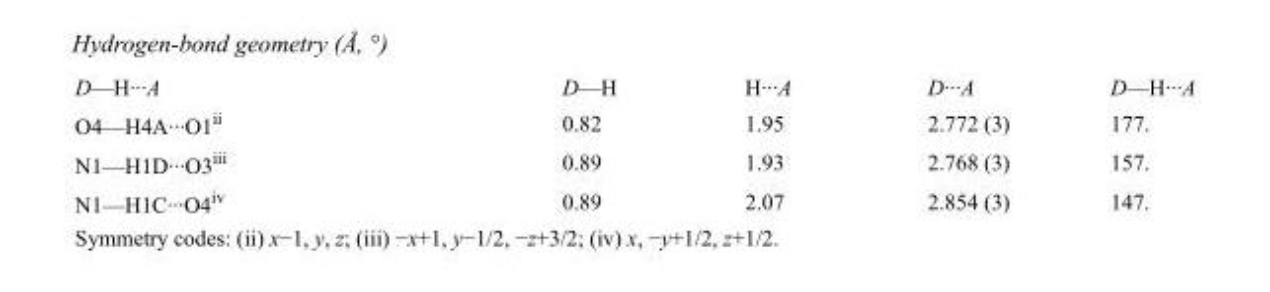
<table><tbody><tr><td>D—H···A</td><td>D—H</td><td>H···A</td><td>D···A</td><td>D—H···A</td></tr><tr><td>O4—H4A···O1<sup>ii</sup></td><td>0.82</td><td>1.95</td><td>2.772 (3)</td><td>177.</td></tr><tr><td>N1—H1D···O3<sup>iii</sup></td><td>0.89</td><td>1.93</td><td>2.768 (3)</td><td>157.</td></tr><tr><td>N1—H1C···O4<sup>iv</sup></td><td>0.89</td><td>2.07</td><td>2.854 (3)</td><td>147.</td></tr></tbody></table>